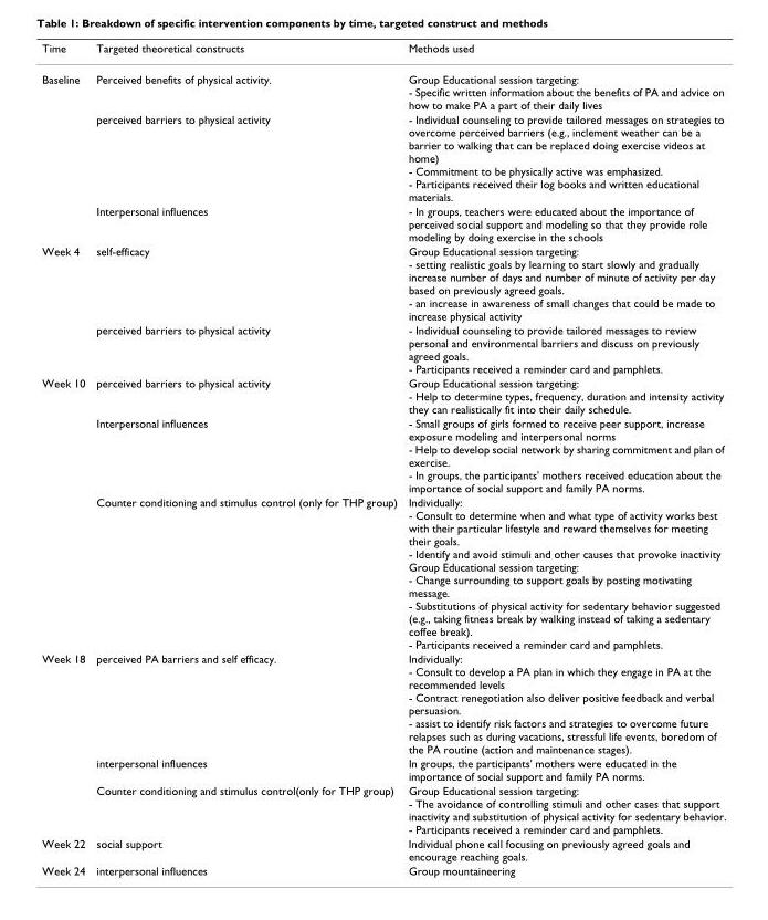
<table><thead><tr><td>Time</td><td>Targeted theoretical constructs</td><td>Methods used</td></tr></thead><tbody><tr><td rowspan="3">Baseline</td><td>Perceived benefits of physical activity.</td><td>Group Educational session targeting: - Specific written information about the benefits of PA and advice on how to make PA a part of their daily lives</td></tr><tr><td>perceived barriers to physical activity</td><td>- Individual counseling to provide tailored messages on strategies to overcome perceived barriers (e.g., inclement weather can be a barrier to walking that can be replaced doing exercise videos at home) - Commitment to be physically active was emphasized. - Participants received their log books and written educational materials.</td></tr><tr><td>Interpersonal influences</td><td>- In groups, teachers were educated about the importance of perceived social support and modeling so that they provide role modeling by doing exercise in the schools</td></tr><tr><td rowspan="2">Week 4</td><td>self-efficacy</td><td>Group Educational session targeting: - setting realistic goals by learning to start slowly and gradually increase number of days and number of minute of activity per day based on previously agreed goals. - an increase in awareness of small changes that could be made to increase physical activity</td></tr><tr><td>perceived barriers to physical activity</td><td>- Individual counseling to provide tailored messages to review personal and environmental barriers and discuss on previously agreed goals. - Participants received a reminder card and pamphlets.</td></tr><tr><td rowspan="3">Week 10</td><td>perceived barriers to physical activity</td><td>Group Educational session targeting: - Help to determine types, frequency, duration and intensity activity they can realistically fit into their daily schedule.</td></tr><tr><td>Interpersonal influences</td><td>- Small groups of girls formed to receive peer support, increase exposure modeling and interpersonal norms - Help to develop social network by sharing commitment and plan of exercise. - In groups, the participants&#x27; mothers received education about the importance of social support and family PA norms.</td></tr><tr><td>Counter conditioning and stimulus control (only for THP group)</td><td>Individually: - Consult to determine when and what type of activity works best with their particular lifestyle and reward themselves for meeting their goals. - Identify and avoid stimuli and other causes that provoke inactivity Group Educational session targeting: - Change surrounding to support goals by posting motivating message. - Substitutions of physical activity for sedentary behavior suggested (e.g., taking fitness break by walking instead of taking a sedentary coffee break). - Participants received a reminder card and pamphlets.</td></tr><tr><td rowspan="3">Week 18</td><td>perceived PA barriers and self efficacy.</td><td>Individually: - Consult to develop a PA plan in which they engage in PA at the recommended levels - Contract renegotiation also deliver positive feedback and verbal persuasion. - assist to identify risk factors and strategies to overcome future relapses such as during vacations, stressful life events, boredom of the PA routine (action and maintenance stages).</td></tr><tr><td>interpersonal influences</td><td>In groups, the participants&#x27; mothers were educated in the importance of social support and family PA norms.</td></tr><tr><td>Counter conditioning and stimulus control(only for THP group)</td><td>Group Educational session targeting: - The avoidance of controlling stimuli and other cases that support inactivity and substitution of physical activity for sedentary behavior. - Participants received a reminder card and pamphlets.</td></tr><tr><td>Week 22</td><td>social support</td><td>Individual phone call focusing on previously agreed goals and encourage reaching goals.</td></tr><tr><td>Week 24</td><td>interpersonal influences</td><td>Group mountaineering</td></tr></tbody></table>